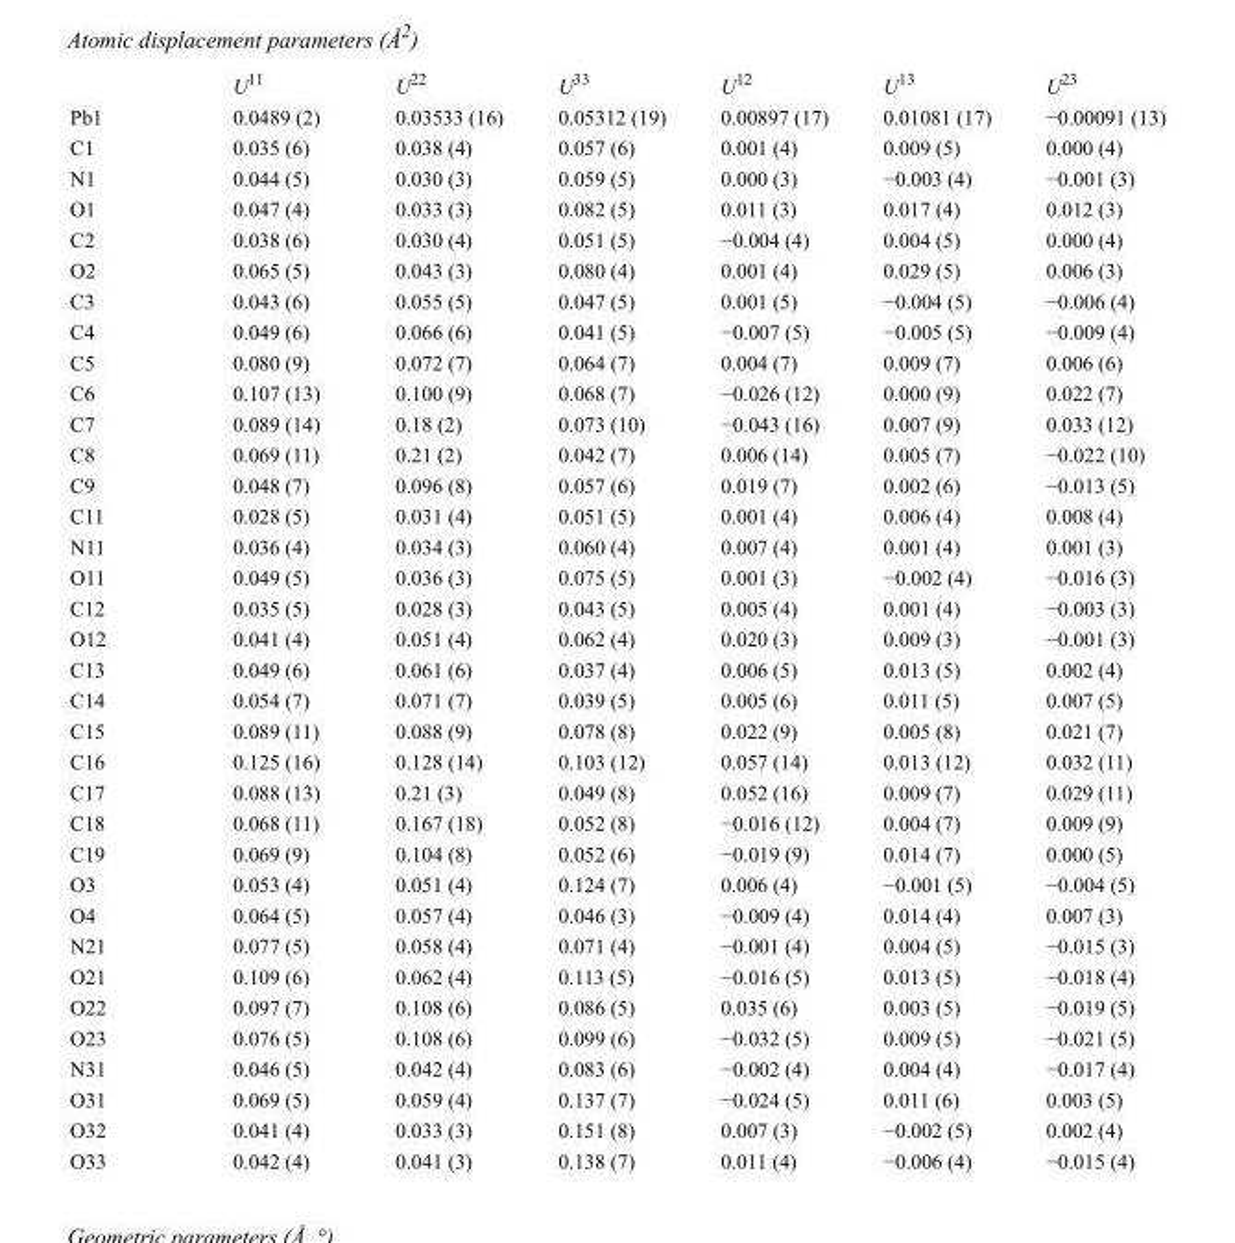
<table><thead><tr><td></td><td>U<sup>11</sup></td><td>U<sup>22</sup></td><td>U<sup>33</sup></td><td>U<sup>12</sup></td><td>U<sup>13</sup></td><td>U<sup>23</sup></td></tr></thead><tbody><tr><td>Pb1</td><td>0.0489 (2)</td><td>0.03533 (16)</td><td>0.05312 (19)</td><td>0.00897 (17)</td><td>0.01081 (17)</td><td>−0.00091 (13)</td></tr><tr><td>C1</td><td>0.035 (6)</td><td>0.038 (4)</td><td>0.057 (6)</td><td>0.001 (4)</td><td>0.009 (5)</td><td>0.000 (4)</td></tr><tr><td>N1</td><td>0.044 (5)</td><td>0.030 (3)</td><td>0.059 (5)</td><td>0.000 (3)</td><td>−0.003 (4)</td><td>−0.001 (3)</td></tr><tr><td>O1</td><td>0.047 (4)</td><td>0.033 (3)</td><td>0.082 (5)</td><td>0.011 (3)</td><td>0.017 (4)</td><td>0.012 (3)</td></tr><tr><td>C2</td><td>0.038 (6)</td><td>0.030 (4)</td><td>0.051 (5)</td><td>−0.004 (4)</td><td>0.004 (5)</td><td>0.000 (4)</td></tr><tr><td>O2</td><td>0.065 (5)</td><td>0.043 (3)</td><td>0.080 (4)</td><td>0.001 (4)</td><td>0.029 (5)</td><td>0.006 (3)</td></tr><tr><td>C3</td><td>0.043 (6)</td><td>0.055 (5)</td><td>0.047 (5)</td><td>0.001 (5)</td><td>−0.004 (5)</td><td>−0.006 (4)</td></tr><tr><td>C4</td><td>0.049 (6)</td><td>0.066 (6)</td><td>0.041 (5)</td><td>−0.007 (5)</td><td>−0.005 (5)</td><td>−0.009 (4)</td></tr><tr><td>C5</td><td>0.080 (9)</td><td>0.072 (7)</td><td>0.064 (7)</td><td>0.004 (7)</td><td>0.009 (7)</td><td>0.006 (6)</td></tr><tr><td>C6</td><td>0.107 (13)</td><td>0.100 (9)</td><td>0.068 (7)</td><td>−0.026 (12)</td><td>0.000 (9)</td><td>0.022 (7)</td></tr><tr><td>C7</td><td>0.089 (14)</td><td>0.18 (2)</td><td>0.073 (10)</td><td>−0.043 (16)</td><td>0.007 (9)</td><td>0.033 (12)</td></tr><tr><td>C8</td><td>0.069 (11)</td><td>0.21 (2)</td><td>0.042 (7)</td><td>0.006 (14)</td><td>0.005 (7)</td><td>−0.022 (10)</td></tr><tr><td>C9</td><td>0.048 (7)</td><td>0.096 (8)</td><td>0.057 (6)</td><td>0.019 (7)</td><td>0.002 (6)</td><td>−0.013 (5)</td></tr><tr><td>C11</td><td>0.028 (5)</td><td>0.031 (4)</td><td>0.051 (5)</td><td>0.001 (4)</td><td>0.006 (4)</td><td>0.008 (4)</td></tr><tr><td>N11</td><td>0.036 (4)</td><td>0.034 (3)</td><td>0.060 (4)</td><td>0.007 (4)</td><td>0.001 (4)</td><td>0.001 (3)</td></tr><tr><td>O11</td><td>0.049 (5)</td><td>0.036 (3)</td><td>0.075 (5)</td><td>0.001 (3)</td><td>−0.002 (4)</td><td>−0.016 (3)</td></tr><tr><td>C12</td><td>0.035 (5)</td><td>0.028 (3)</td><td>0.043 (5)</td><td>0.005 (4)</td><td>0.001 (4)</td><td>−0.003 (3)</td></tr><tr><td>O12</td><td>0.041 (4)</td><td>0.051 (4)</td><td>0.062 (4)</td><td>0.020 (3)</td><td>0.009 (3)</td><td>−0.001 (3)</td></tr><tr><td>C13</td><td>0.049 (6)</td><td>0.061 (6)</td><td>0.037 (4)</td><td>0.006 (5)</td><td>0.013 (5)</td><td>0.002 (4)</td></tr><tr><td>C14</td><td>0.054 (7)</td><td>0.071 (7)</td><td>0.039 (5)</td><td>0.005 (6)</td><td>0.011 (5)</td><td>0.007 (5)</td></tr><tr><td>C15</td><td>0.089 (11)</td><td>0.088 (9)</td><td>0.078 (8)</td><td>0.022 (9)</td><td>0.005 (8)</td><td>0.021 (7)</td></tr><tr><td>C16</td><td>0.125 (16)</td><td>0.128 (14)</td><td>0.103 (12)</td><td>0.057 (14)</td><td>0.013 (12)</td><td>0.032 (11)</td></tr><tr><td>C17</td><td>0.088 (13)</td><td>0.21 (3)</td><td>0.049 (8)</td><td>0.052 (16)</td><td>0.009 (7)</td><td>0.029 (11)</td></tr><tr><td>C18</td><td>0.068 (11)</td><td>0.167 (18)</td><td>0.052 (8)</td><td>−0.016 (12)</td><td>0.004 (7)</td><td>0.009 (9)</td></tr><tr><td>C19</td><td>0.069 (9)</td><td>0.104 (8)</td><td>0.052 (6)</td><td>−0.019 (9)</td><td>0.014 (7)</td><td>0.000 (5)</td></tr><tr><td>O3</td><td>0.053 (4)</td><td>0.051 (4)</td><td>0.124 (7)</td><td>0.006 (4)</td><td>−0.001 (5)</td><td>−0.004 (5)</td></tr><tr><td>O4</td><td>0.064 (5)</td><td>0.057 (4)</td><td>0.046 (3)</td><td>−0.009 (4)</td><td>0.014 (4)</td><td>0.007 (3)</td></tr><tr><td>N21</td><td>0.077 (5)</td><td>0.058 (4)</td><td>0.071 (4)</td><td>−0.001 (4)</td><td>0.004 (5)</td><td>−0.015 (3)</td></tr><tr><td>O21</td><td>0.109 (6)</td><td>0.062 (4)</td><td>0.113 (5)</td><td>−0.016 (5)</td><td>0.013 (5)</td><td>−0.018 (4)</td></tr><tr><td>O22</td><td>0.097 (7)</td><td>0.108 (6)</td><td>0.086 (5)</td><td>0.035 (6)</td><td>0.003 (5)</td><td>−0.019 (5)</td></tr><tr><td>O23</td><td>0.076 (5)</td><td>0.108 (6)</td><td>0.099 (6)</td><td>−0.032 (5)</td><td>0.009 (5)</td><td>−0.021 (5)</td></tr><tr><td>N31</td><td>0.046 (5)</td><td>0.042 (4)</td><td>0.083 (6)</td><td>−0.002 (4)</td><td>0.004 (4)</td><td>−0.017 (4)</td></tr><tr><td>O31</td><td>0.069 (5)</td><td>0.059 (4)</td><td>0.137 (7)</td><td>−0.024 (5)</td><td>0.011 (6)</td><td>0.003 (5)</td></tr><tr><td>O32</td><td>0.041 (4)</td><td>0.033 (3)</td><td>0.151 (8)</td><td>0.007 (3)</td><td>−0.002 (5)</td><td>0.002 (4)</td></tr><tr><td>O33</td><td>0.042 (4)</td><td>0.041 (3)</td><td>0.138 (7)</td><td>0.011 (4)</td><td>−0.006 (4)</td><td>−0.015 (4)</td></tr></tbody></table>